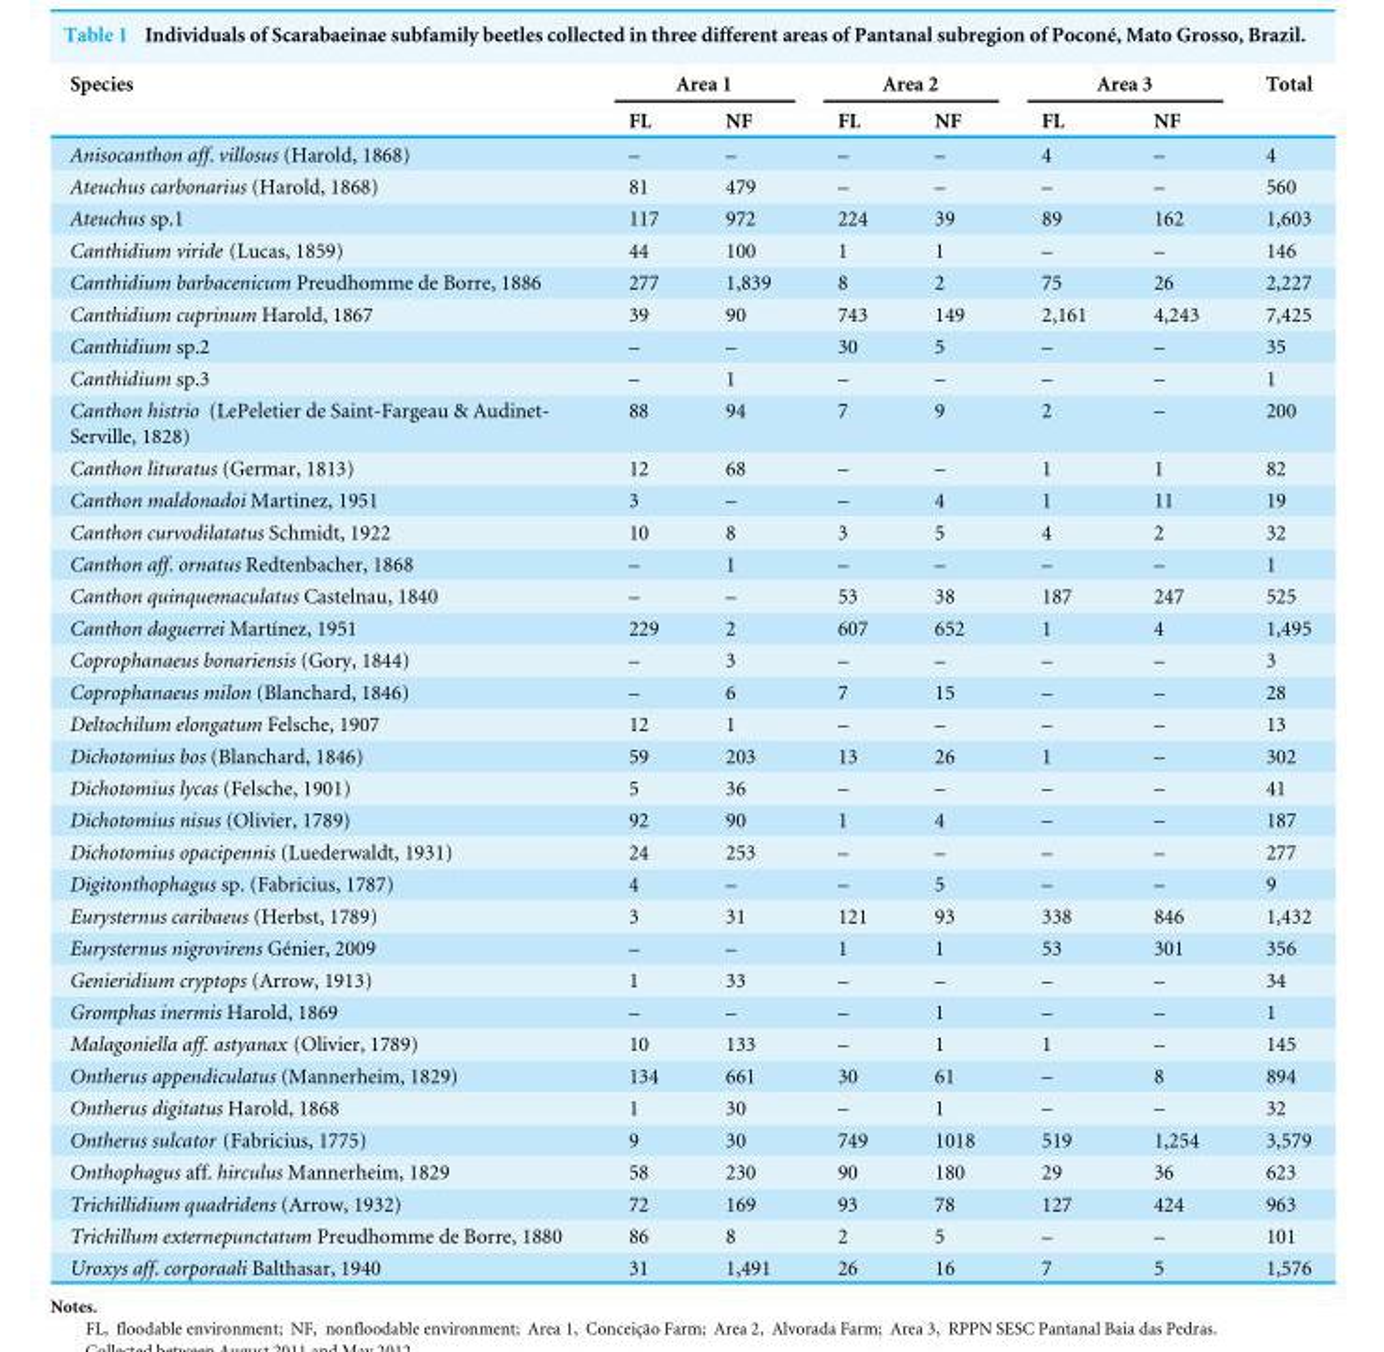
<table><thead><tr><td rowspan="2">Species</td><td colspan="2">Area 1</td><td colspan="2">Area 2</td><td colspan="2">Area 3</td><td rowspan="2">Total</td></tr><tr><td>FL</td><td>NF</td><td>FL</td><td>NF</td><td>FL</td><td>NF</td></tr></thead><tbody><tr><td>Anisocanthon aff. villosus (Harold, 1868)</td><td>–</td><td>–</td><td>–</td><td>–</td><td>4</td><td>–</td><td>4</td></tr><tr><td>Ateuchus carbonarius (Harold, 1868)</td><td>81</td><td>479</td><td>–</td><td>–</td><td>–</td><td>–</td><td>560</td></tr><tr><td>Ateuchus sp.1</td><td>117</td><td>972</td><td>224</td><td>39</td><td>89</td><td>162</td><td>1,603</td></tr><tr><td>Canthidium viride (Lucas, 1859)</td><td>44</td><td>100</td><td>1</td><td>1</td><td>–</td><td>–</td><td>146</td></tr><tr><td>Canthidium barbacenicum Preudhomme de Borre, 1886</td><td>277</td><td>1,839</td><td>8</td><td>2</td><td>75</td><td>26</td><td>2,227</td></tr><tr><td>Canthidium cuprinum Harold, 1867</td><td>39</td><td>90</td><td>743</td><td>149</td><td>2,161</td><td>4,243</td><td>7,425</td></tr><tr><td>Canthidium sp.2</td><td>–</td><td>–</td><td>30</td><td>5</td><td>–</td><td>–</td><td>35</td></tr><tr><td>Canthidium sp.3</td><td>–</td><td>1</td><td>–</td><td>–</td><td>–</td><td>–</td><td>1</td></tr><tr><td>Canthon histrio (LePeletier de Saint-Fargeau &amp; Audinet- Serville, 1828)</td><td>88</td><td>94</td><td>7</td><td>9</td><td>2</td><td>–</td><td>200</td></tr><tr><td>Canthon lituratus (Germar, 1813)</td><td>12</td><td>68</td><td>–</td><td>–</td><td>1</td><td>1</td><td>82</td></tr><tr><td>Canthon maldonadoi Martinez, 1951</td><td>3</td><td>–</td><td>–</td><td>4</td><td>1</td><td>11</td><td>19</td></tr><tr><td>Canthon curvodilatatus Schmidt, 1922</td><td>10</td><td>8</td><td>3</td><td>5</td><td>4</td><td>2</td><td>32</td></tr><tr><td>Canthon aff. ornatus Redtenbacher, 1868</td><td>–</td><td>1</td><td>–</td><td>–</td><td>–</td><td>–</td><td>1</td></tr><tr><td>Canthon quinquemaculatus Castelnau, 1840</td><td>–</td><td>–</td><td>53</td><td>38</td><td>187</td><td>247</td><td>525</td></tr><tr><td>Canthon daguerrei Martínez, 1951</td><td>229</td><td>2</td><td>607</td><td>652</td><td>1</td><td>4</td><td>1,495</td></tr><tr><td>Coprophanaeus bonariensis (Gory, 1844)</td><td>–</td><td>3</td><td>–</td><td>–</td><td>–</td><td>–</td><td>3</td></tr><tr><td>Coprophanaeus milon (Blanchard, 1846)</td><td>–</td><td>6</td><td>7</td><td>15</td><td>–</td><td>–</td><td>28</td></tr><tr><td>Deltochilum elongatum Felsche, 1907</td><td>12</td><td>1</td><td>–</td><td>–</td><td>–</td><td>–</td><td>13</td></tr><tr><td>Dichotomius bos (Blanchard, 1846)</td><td>59</td><td>203</td><td>13</td><td>26</td><td>1</td><td>–</td><td>302</td></tr><tr><td>Dichotomius lycas (Felsche, 1901)</td><td>5</td><td>36</td><td>–</td><td>–</td><td>–</td><td>–</td><td>41</td></tr><tr><td>Dichotomius nisus (Olivier, 1789)</td><td>92</td><td>90</td><td>1</td><td>4</td><td>–</td><td>–</td><td>187</td></tr><tr><td>Dichotomius opacipennis (Luederwaldt, 1931)</td><td>24</td><td>253</td><td>–</td><td>–</td><td>–</td><td>–</td><td>277</td></tr><tr><td>Digitonthophagus sp. (Fabricius, 1787)</td><td>4</td><td>–</td><td>–</td><td>5</td><td>–</td><td>–</td><td>9</td></tr><tr><td>Eurysternus caribaeus (Herbst, 1789)</td><td>3</td><td>31</td><td>121</td><td>93</td><td>338</td><td>846</td><td>1,432</td></tr><tr><td>Eurysternus nigrovirens Génier, 2009</td><td>–</td><td>–</td><td>1</td><td>1</td><td>53</td><td>301</td><td>356</td></tr><tr><td>Genieridium cryptops (Arrow, 1913)</td><td>1</td><td>33</td><td>–</td><td>–</td><td>–</td><td>–</td><td>34</td></tr><tr><td>Gromphas inermis Harold, 1869</td><td>–</td><td>–</td><td>–</td><td>1</td><td>–</td><td>–</td><td>1</td></tr><tr><td>Malagoniella aff. astyanax (Olivier, 1789)</td><td>10</td><td>133</td><td>–</td><td>1</td><td>1</td><td>–</td><td>145</td></tr><tr><td>Ontherus appendiculatus (Mannerheim, 1829)</td><td>134</td><td>661</td><td>30</td><td>61</td><td>–</td><td>8</td><td>894</td></tr><tr><td>Ontherus digitatus Harold, 1868</td><td>1</td><td>30</td><td>–</td><td>1</td><td>–</td><td>–</td><td>32</td></tr><tr><td>Ontherus sulcator (Fabricius, 1775)</td><td>9</td><td>30</td><td>749</td><td>1018</td><td>519</td><td>1,254</td><td>3,579</td></tr><tr><td>Onthophagus aff. hirculus Mannerheim, 1829</td><td>58</td><td>230</td><td>90</td><td>180</td><td>29</td><td>36</td><td>623</td></tr><tr><td>Trichillidium quadridens (Arrow, 1932)</td><td>72</td><td>169</td><td>93</td><td>78</td><td>127</td><td>424</td><td>963</td></tr><tr><td>Trichillum externepunctatum Preudhomme de Borre, 1880</td><td>86</td><td>8</td><td>2</td><td>5</td><td>–</td><td>–</td><td>101</td></tr><tr><td>Uroxys aff. corporaali Balthasar, 1940</td><td>31</td><td>1,491</td><td>26</td><td>16</td><td>7</td><td>5</td><td>1,576</td></tr></tbody></table>